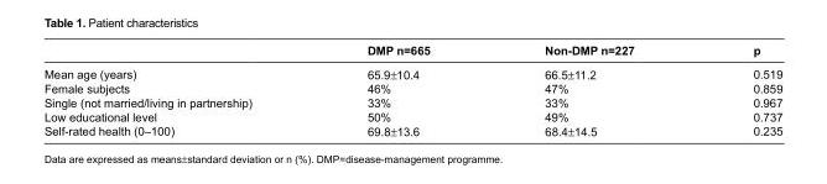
<table><thead><tr><td></td><td>DMP n=665</td><td>Non-DMP n=227</td><td>p</td></tr></thead><tbody><tr><td>Mean age (years)</td><td>65.9±10.4</td><td>66.5±11.2</td><td>0.519</td></tr><tr><td>Female subjects</td><td>46%</td><td>47%</td><td>0.859</td></tr><tr><td>Single (not married/living in partnership)</td><td>33%</td><td>33%</td><td>0.967</td></tr><tr><td>Low educational level</td><td>50%</td><td>49%</td><td>0.737</td></tr><tr><td>Self-rated health (0–100)</td><td>69.8±13.6</td><td>68.4±14.5</td><td>0.235</td></tr></tbody></table>